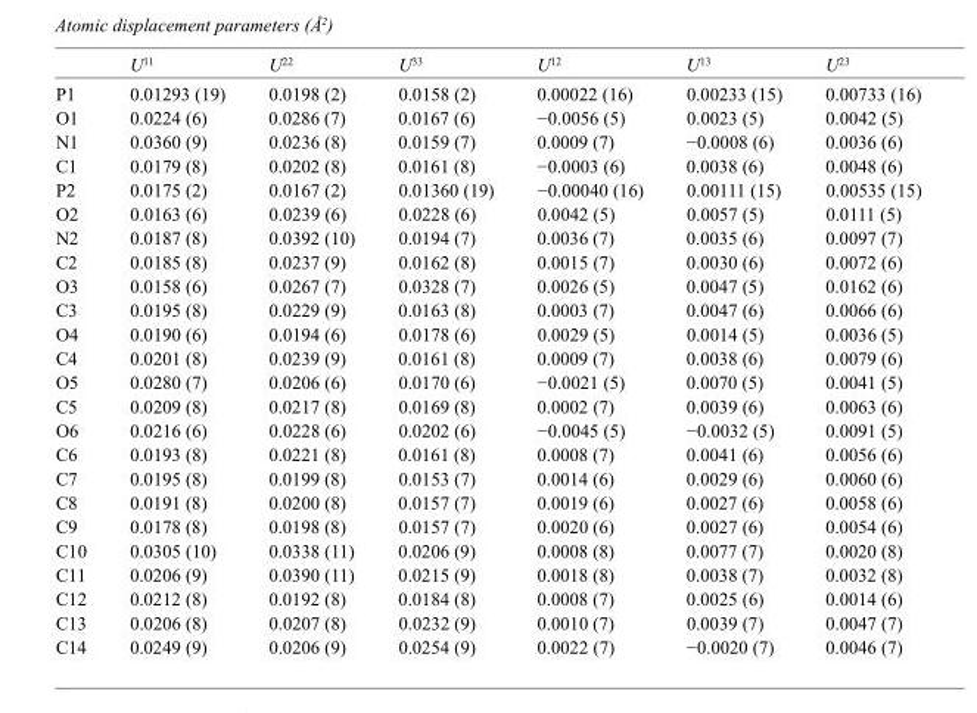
<table><thead><tr><td></td><td>U<sup>11</sup></td><td>U<sup>22</sup></td><td>U<sup>33</sup></td><td>U<sup>12</sup></td><td>U<sup>13</sup></td><td>U<sup>23</sup></td></tr></thead><tbody><tr><td>P1</td><td>0.01293 (19)</td><td>0.0198 (2)</td><td>0.0158 (2)</td><td>0.00022 (16)</td><td>0.00233 (15)</td><td>0.00733 (16)</td></tr><tr><td>O1</td><td>0.0224 (6)</td><td>0.0286 (7)</td><td>0.0167 (6)</td><td>−0.0056 (5)</td><td>0.0023 (5)</td><td>0.0042 (5)</td></tr><tr><td>N1</td><td>0.0360 (9)</td><td>0.0236 (8)</td><td>0.0159 (7)</td><td>0.0009 (7)</td><td>−0.0008 (6)</td><td>0.0036 (6)</td></tr><tr><td>C1</td><td>0.0179 (8)</td><td>0.0202 (8)</td><td>0.0161 (8)</td><td>−0.0003 (6)</td><td>0.0038 (6)</td><td>0.0048 (6)</td></tr><tr><td>P2</td><td>0.0175 (2)</td><td>0.0167 (2)</td><td>0.01360 (19)</td><td>−0.00040 (16)</td><td>0.00111 (15)</td><td>0.00535 (15)</td></tr><tr><td>O2</td><td>0.0163 (6)</td><td>0.0239 (6)</td><td>0.0228 (6)</td><td>0.0042 (5)</td><td>0.0057 (5)</td><td>0.0111 (5)</td></tr><tr><td>N2</td><td>0.0187 (8)</td><td>0.0392 (10)</td><td>0.0194 (7)</td><td>0.0036 (7)</td><td>0.0035 (6)</td><td>0.0097 (7)</td></tr><tr><td>C2</td><td>0.0185 (8)</td><td>0.0237 (9)</td><td>0.0162 (8)</td><td>0.0015 (7)</td><td>0.0030 (6)</td><td>0.0072 (6)</td></tr><tr><td>O3</td><td>0.0158 (6)</td><td>0.0267 (7)</td><td>0.0328 (7)</td><td>0.0026 (5)</td><td>0.0047 (5)</td><td>0.0162 (6)</td></tr><tr><td>C3</td><td>0.0195 (8)</td><td>0.0229 (9)</td><td>0.0163 (8)</td><td>0.0003 (7)</td><td>0.0047 (6)</td><td>0.0066 (6)</td></tr><tr><td>O4</td><td>0.0190 (6)</td><td>0.0194 (6)</td><td>0.0178 (6)</td><td>0.0029 (5)</td><td>0.0014 (5)</td><td>0.0036 (5)</td></tr><tr><td>C4</td><td>0.0201 (8)</td><td>0.0239 (9)</td><td>0.0161 (8)</td><td>0.0009 (7)</td><td>0.0038 (6)</td><td>0.0079 (6)</td></tr><tr><td>O5</td><td>0.0280 (7)</td><td>0.0206 (6)</td><td>0.0170 (6)</td><td>−0.0021 (5)</td><td>0.0070 (5)</td><td>0.0041 (5)</td></tr><tr><td>C5</td><td>0.0209 (8)</td><td>0.0217 (8)</td><td>0.0169 (8)</td><td>0.0002 (7)</td><td>0.0039 (6)</td><td>0.0063 (6)</td></tr><tr><td>O6</td><td>0.0216 (6)</td><td>0.0228 (6)</td><td>0.0202 (6)</td><td>−0.0045 (5)</td><td>−0.0032 (5)</td><td>0.0091 (5)</td></tr><tr><td>C6</td><td>0.0193 (8)</td><td>0.0221 (8)</td><td>0.0161 (8)</td><td>0.0008 (7)</td><td>0.0041 (6)</td><td>0.0056 (6)</td></tr><tr><td>C7</td><td>0.0195 (8)</td><td>0.0199 (8)</td><td>0.0153 (7)</td><td>0.0014 (6)</td><td>0.0029 (6)</td><td>0.0060 (6)</td></tr><tr><td>C8</td><td>0.0191 (8)</td><td>0.0200 (8)</td><td>0.0157 (7)</td><td>0.0019 (6)</td><td>0.0027 (6)</td><td>0.0058 (6)</td></tr><tr><td>C9</td><td>0.0178 (8)</td><td>0.0198 (8)</td><td>0.0157 (7)</td><td>0.0020 (6)</td><td>0.0027 (6)</td><td>0.0054 (6)</td></tr><tr><td>C10</td><td>0.0305 (10)</td><td>0.0338 (11)</td><td>0.0206 (9)</td><td>0.0008 (8)</td><td>0.0077 (7)</td><td>0.0020 (8)</td></tr><tr><td>C11</td><td>0.0206 (9)</td><td>0.0390 (11)</td><td>0.0215 (9)</td><td>0.0018 (8)</td><td>0.0038 (7)</td><td>0.0032 (8)</td></tr><tr><td>C12</td><td>0.0212 (8)</td><td>0.0192 (8)</td><td>0.0184 (8)</td><td>0.0008 (7)</td><td>0.0025 (6)</td><td>0.0014 (6)</td></tr><tr><td>C13</td><td>0.0206 (8)</td><td>0.0207 (8)</td><td>0.0232 (9)</td><td>0.0010 (7)</td><td>0.0039 (7)</td><td>0.0047 (7)</td></tr><tr><td>C14</td><td>0.0249 (9)</td><td>0.0206 (9)</td><td>0.0254 (9)</td><td>0.0022 (7)</td><td>−0.0020 (7)</td><td>0.0046 (7)</td></tr></tbody></table>